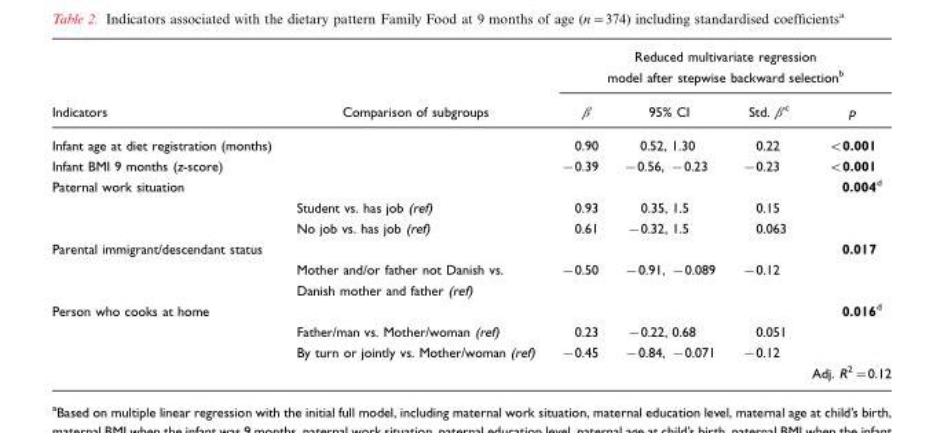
<table><thead><tr><td rowspan="2">Indicators</td><td rowspan="2">Comparison of subgroups</td><td colspan="4">Reduced multivariate regression model after stepwise backward selection<sup>b</sup></td></tr><tr><td>β</td><td>95% CI</td><td>Std. β<sup>c</sup></td><td>p</td></tr></thead><tbody><tr><td>Infant age at diet registration (months)</td><td></td><td>0.90</td><td>0.52, 1.30</td><td>0.22</td><td>&lt;0.001</td></tr><tr><td>Infant BMI 9 months (z-score)</td><td></td><td>−0.39</td><td>−0.56, −0.23</td><td>−0.23</td><td>&lt;0.001</td></tr><tr><td rowspan="3">Paternal work situation</td><td></td><td></td><td></td><td></td><td>0.004<sup>d</sup></td></tr><tr><td>Student vs. has job (ref)</td><td>0.93</td><td>0.35, 1.5</td><td>0.15</td><td></td></tr><tr><td>No job vs. has job (ref)</td><td>0.61</td><td>−0.32, 1.5</td><td>0.063</td><td></td></tr><tr><td rowspan="2">Parental immigrant/descendant status</td><td></td><td></td><td></td><td></td><td>0.017</td></tr><tr><td>Mother and/or father not Danish vs. Danish mother and father (ref)</td><td>−0.50</td><td>−0.91, −0.089</td><td>−0.12</td><td></td></tr><tr><td rowspan="4">Person who cooks at home</td><td></td><td></td><td></td><td></td><td>0.016<sup>d</sup></td></tr><tr><td>Father/man vs. Mother/woman (ref)</td><td>0.23</td><td>−0.22, 0.68</td><td>0.051</td><td></td></tr><tr><td>By turn or jointly vs. Mother/woman (ref)</td><td>−0.45</td><td>−0.84, −0.071</td><td>−0.12</td><td></td></tr><tr><td></td><td></td><td></td><td></td><td>Adj. R<sup>2</sup>=0.12</td></tr></tbody></table>